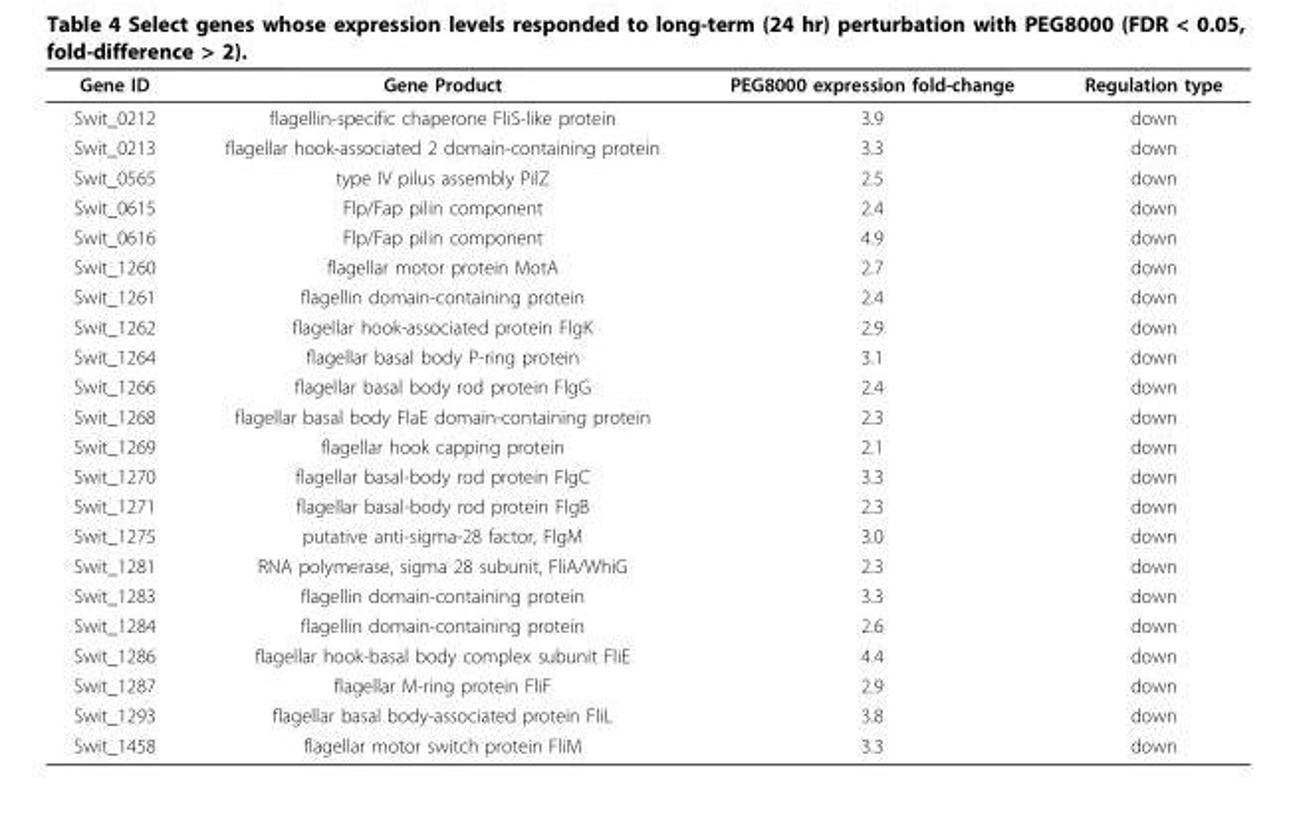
<table><thead><tr><td>Gene ID</td><td>Gene Product</td><td>PEG8000 expression fold-change</td><td>Regulation type</td></tr></thead><tbody><tr><td>Swit_0212</td><td>flagellin-specific chaperone FliS-like protein</td><td>3.9</td><td>down</td></tr><tr><td>Swit_0213</td><td>flagellar hook-associated 2 domain-containing protein</td><td>3.3</td><td>down</td></tr><tr><td>Swit_0565</td><td>type IV pilus assembly PilZ</td><td>2.5</td><td>down</td></tr><tr><td>Swit_0615</td><td>Flp/Fap pilin component</td><td>2.4</td><td>down</td></tr><tr><td>Swit_0616</td><td>Flp/Fap pilin component</td><td>4.9</td><td>down</td></tr><tr><td>Swit_1260</td><td>flagellar motor protein MotA</td><td>2.7</td><td>down</td></tr><tr><td>Swit_1261</td><td>flagellin domain-containing protein</td><td>2.4</td><td>down</td></tr><tr><td>Swit_1262</td><td>flagellar hook-associated protein FlgK</td><td>2.9</td><td>down</td></tr><tr><td>Swit_1264</td><td>flagellar basal body P-ring protein</td><td>3.1</td><td>down</td></tr><tr><td>Swit_1266</td><td>flagellar basal body rod protein FlgG</td><td>2.4</td><td>down</td></tr><tr><td>Swit_1268</td><td>flagellar basal body FlaE domain-containing protein</td><td>2.3</td><td>down</td></tr><tr><td>Swit_1269</td><td>flagellar hook capping protein</td><td>2.1</td><td>down</td></tr><tr><td>Swit_1270</td><td>flagellar basal-body rod protein FlgC</td><td>3.3</td><td>down</td></tr><tr><td>Swit_1271</td><td>flagellar basal-body rod protein FlgB</td><td>2.3</td><td>down</td></tr><tr><td>Swit_1275</td><td>putative anti-sigma-28 factor, FlgM</td><td>3.0</td><td>down</td></tr><tr><td>Swit_1281</td><td>RNA polymerase, sigma 28 subunit, FliA/WhiG</td><td>2.3</td><td>down</td></tr><tr><td>Swit_1283</td><td>flagellin domain-containing protein</td><td>3.3</td><td>down</td></tr><tr><td>Swit_1284</td><td>flagellin domain-containing protein</td><td>2.6</td><td>down</td></tr><tr><td>Swit_1286</td><td>flagellar hook-basal body complex subunit FliE</td><td>4.4</td><td>down</td></tr><tr><td>Swit_1287</td><td>flagellar M-ring protein FliF</td><td>2.9</td><td>down</td></tr><tr><td>Swit_1293</td><td>flagellar basal body-associated protein FliL</td><td>3.8</td><td>down</td></tr><tr><td>Swit_1458</td><td>flagellar motor switch protein FliM</td><td>3.3</td><td>down</td></tr></tbody></table>